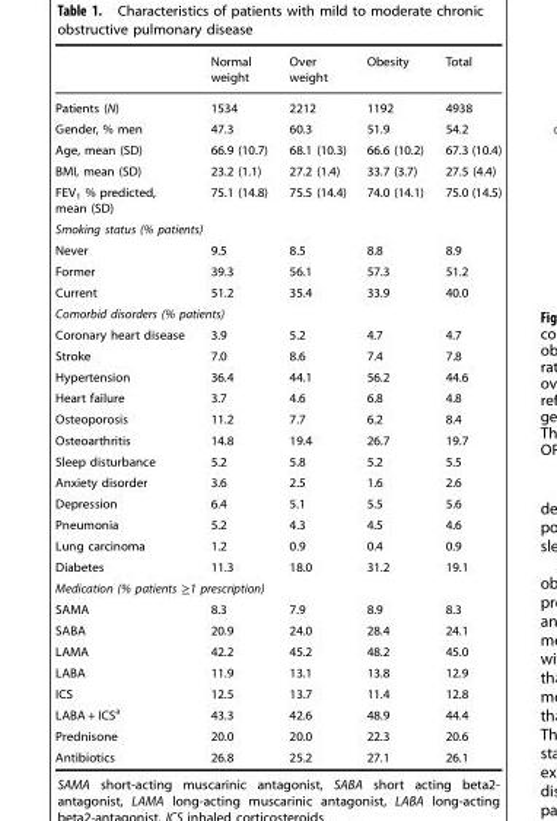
<table><thead><tr><td></td><td>Normal weight</td><td>Over weight</td><td>Obesity</td><td>Total</td></tr></thead><tbody><tr><td>Patients (N)</td><td>1534</td><td>2212</td><td>1192</td><td>4938</td></tr><tr><td>Gender, % men</td><td>47.3</td><td>60.3</td><td>51.9</td><td>54.2</td></tr><tr><td>Age, mean (SD)</td><td>66.9 (10.7)</td><td>68.1 (10.3)</td><td>66.6 (10.2)</td><td>67.3 (10.4)</td></tr><tr><td>BMI, mean (SD)</td><td>23.2 (1.1)</td><td>27.2 (1.4)</td><td>33.7 (3.7)</td><td>27.5 (4.4)</td></tr><tr><td>FEV<sub>1</sub> % predicted, mean (SD)</td><td>75.1 (14.8)</td><td>75.5 (14.4)</td><td>74.0 (14.1)</td><td>75.0 (14.5)</td></tr><tr><td colspan="5">Smoking status (% patients)</td></tr><tr><td>Never</td><td>9.5</td><td>8.5</td><td>8.8</td><td>8.9</td></tr><tr><td>Former</td><td>39.3</td><td>56.1</td><td>57.3</td><td>51.2</td></tr><tr><td>Current</td><td>51.2</td><td>35.4</td><td>33.9</td><td>40.0</td></tr><tr><td colspan="5">Comorbid disorders (% patients)</td></tr><tr><td>Coronary heart disease</td><td>3.9</td><td>5.2</td><td>4.7</td><td>4.7</td></tr><tr><td>Stroke</td><td>7.0</td><td>8.6</td><td>7.4</td><td>7.8</td></tr><tr><td>Hypertension</td><td>36.4</td><td>44.1</td><td>56.2</td><td>44.6</td></tr><tr><td>Heart failure</td><td>3.7</td><td>4.6</td><td>6.8</td><td>4.8</td></tr><tr><td>Osteoporosis</td><td>11.2</td><td>7.7</td><td>6.2</td><td>8.4</td></tr><tr><td>Osteoarthritis</td><td>14.8</td><td>19.4</td><td>26.7</td><td>19.7</td></tr><tr><td>Sleep disturbance</td><td>5.2</td><td>5.8</td><td>5.2</td><td>5.5</td></tr><tr><td>Anxiety disorder</td><td>3.6</td><td>2.5</td><td>1.6</td><td>2.6</td></tr><tr><td>Depression</td><td>6.4</td><td>5.1</td><td>5.5</td><td>5.6</td></tr><tr><td>Pneumonia</td><td>5.2</td><td>4.3</td><td>4.5</td><td>4.6</td></tr><tr><td>Lung carcinoma</td><td>1.2</td><td>0.9</td><td>0.4</td><td>0.9</td></tr><tr><td>Diabetes</td><td>11.3</td><td>18.0</td><td>31.2</td><td>19.1</td></tr><tr><td colspan="5">Medication (% patients ≥1 prescription)</td></tr><tr><td>SAMA</td><td>8.3</td><td>7.9</td><td>8.9</td><td>8.3</td></tr><tr><td>SABA</td><td>20.9</td><td>24.0</td><td>28.4</td><td>24.1</td></tr><tr><td>LAMA</td><td>42.2</td><td>45.2</td><td>48.2</td><td>45.0</td></tr><tr><td>LABA</td><td>11.9</td><td>13.1</td><td>13.8</td><td>12.9</td></tr><tr><td>ICS</td><td>12.5</td><td>13.7</td><td>11.4</td><td>12.8</td></tr><tr><td>LABA + ICS<sup>a</sup></td><td>43.3</td><td>42.6</td><td>48.9</td><td>44.4</td></tr><tr><td>Prednisone</td><td>20.0</td><td>20.0</td><td>22.3</td><td>20.6</td></tr><tr><td>Antibiotics</td><td>26.8</td><td>25.2</td><td>27.1</td><td>26.1</td></tr></tbody></table>